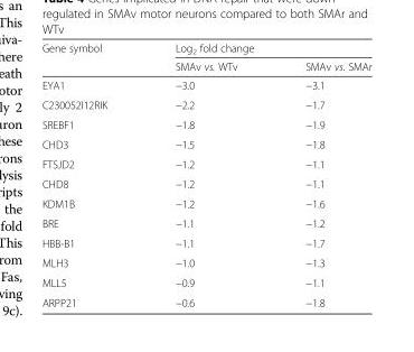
<table><thead><tr><td rowspan="2">Gene symbol</td><td colspan="2">Log<sub>2</sub> fold change</td></tr><tr><td>SMAv vs. WTv</td><td>SMAv vs. SMAr</td></tr></thead><tbody><tr><td>EYA1</td><td>−3.0</td><td>−3.1</td></tr><tr><td>C230052I12RIK</td><td>−2.2</td><td>−1.7</td></tr><tr><td>SREBF1</td><td>−1.8</td><td>−1.9</td></tr><tr><td>CHD3</td><td>−1.5</td><td>−1.8</td></tr><tr><td>FTSJD2</td><td>−1.2</td><td>−1.1</td></tr><tr><td>CHD8</td><td>−1.2</td><td>−1.1</td></tr><tr><td>KDM1B</td><td>−1.2</td><td>−1.6</td></tr><tr><td>BRE</td><td>−1.1</td><td>−1.2</td></tr><tr><td>HBB-B1</td><td>−1.1</td><td>−1.7</td></tr><tr><td>MLH3</td><td>−1.0</td><td>−1.3</td></tr><tr><td>MLL5</td><td>−0.9</td><td>−1.1</td></tr><tr><td>ARPP21</td><td>−0.6</td><td>−1.8</td></tr></tbody></table>